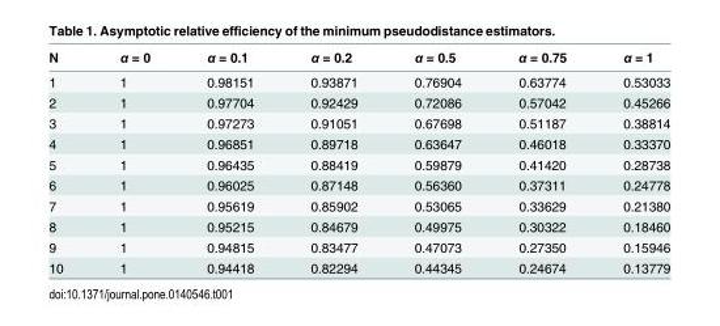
<table><thead><tr><td>N</td><td>α = 0</td><td>α = 0.1</td><td>α = 0.2</td><td>α = 0.5</td><td>α = 0.75</td><td>α = 1</td></tr></thead><tbody><tr><td>1</td><td>1</td><td>0.98151</td><td>0.93871</td><td>0.76904</td><td>0.63774</td><td>0.53033</td></tr><tr><td>2</td><td>1</td><td>0.97704</td><td>0.92429</td><td>0.72086</td><td>0.57042</td><td>0.45266</td></tr><tr><td>3</td><td>1</td><td>0.97273</td><td>0.91051</td><td>0.67698</td><td>0.51187</td><td>0.38814</td></tr><tr><td>4</td><td>1</td><td>0.96851</td><td>0.89718</td><td>0.63647</td><td>0.46018</td><td>0.33370</td></tr><tr><td>5</td><td>1</td><td>0.96435</td><td>0.88419</td><td>0.59879</td><td>0.41420</td><td>0.28738</td></tr><tr><td>6</td><td>1</td><td>0.96025</td><td>0.87148</td><td>0.56360</td><td>0.37311</td><td>0.24778</td></tr><tr><td>7</td><td>1</td><td>0.95619</td><td>0.85902</td><td>0.53065</td><td>0.33629</td><td>0.21380</td></tr><tr><td>8</td><td>1</td><td>0.95215</td><td>0.84679</td><td>0.49975</td><td>0.30322</td><td>0.18460</td></tr><tr><td>9</td><td>1</td><td>0.94815</td><td>0.83477</td><td>0.47073</td><td>0.27350</td><td>0.15946</td></tr><tr><td>10</td><td>1</td><td>0.94418</td><td>0.82294</td><td>0.44345</td><td>0.24674</td><td>0.13779</td></tr></tbody></table>